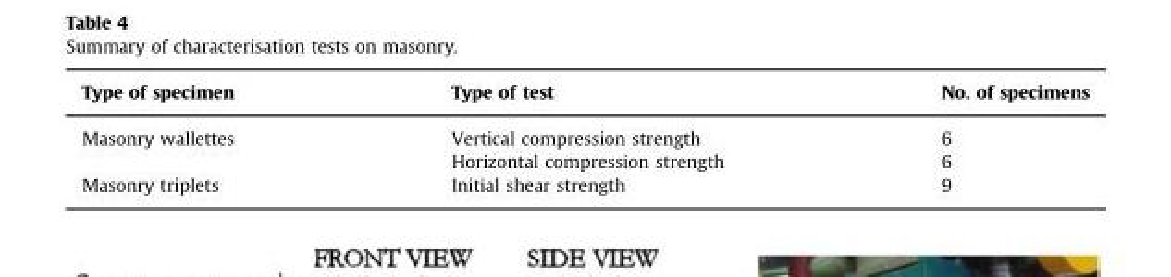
<table><thead><tr><td>Type of specimen</td><td>Type of test</td><td>No. of specimens</td></tr></thead><tbody><tr><td rowspan="2">Masonry wallettes</td><td>Vertical compression strength</td><td>6</td></tr><tr><td>Horizontal compression strength</td><td>6</td></tr><tr><td>Masonry triplets</td><td>Initial shear strength</td><td>9</td></tr></tbody></table>